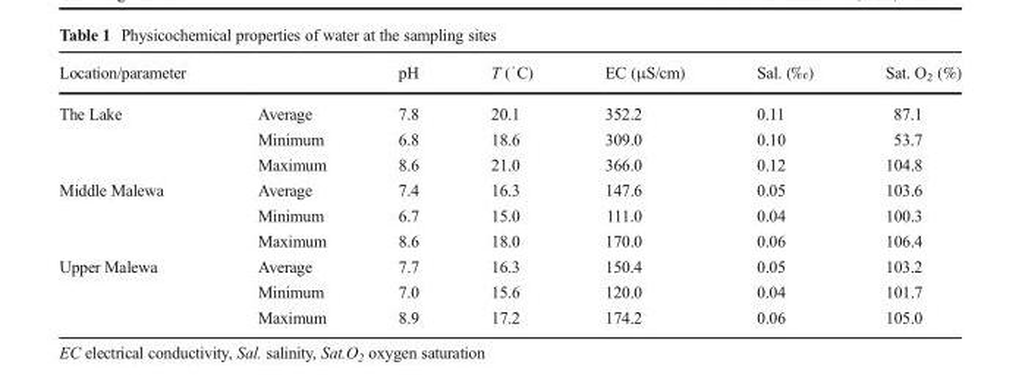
<table><thead><tr><td>Location/parameter</td><td></td><td>pH</td><td>T (<sup>∘</sup>C)</td><td>EC (μS/cm)</td><td>Sal. (‰)</td><td>Sat. O<sub>2</sub> (%)</td></tr></thead><tbody><tr><td rowspan="3">The Lake</td><td>Average</td><td>7.8</td><td>20.1</td><td>352.2</td><td>0.11</td><td>87.1</td></tr><tr><td>Minimum</td><td>6.8</td><td>18.6</td><td>309.0</td><td>0.10</td><td>53.7</td></tr><tr><td>Maximum</td><td>8.6</td><td>21.0</td><td>366.0</td><td>0.12</td><td>104.8</td></tr><tr><td rowspan="3">Middle Malewa</td><td>Average</td><td>7.4</td><td>16.3</td><td>147.6</td><td>0.05</td><td>103.6</td></tr><tr><td>Minimum</td><td>6.7</td><td>15.0</td><td>111.0</td><td>0.04</td><td>100.3</td></tr><tr><td>Maximum</td><td>8.6</td><td>18.0</td><td>170.0</td><td>0.06</td><td>106.4</td></tr><tr><td rowspan="3">Upper Malewa</td><td>Average</td><td>7.7</td><td>16.3</td><td>150.4</td><td>0.05</td><td>103.2</td></tr><tr><td>Minimum</td><td>7.0</td><td>15.6</td><td>120.0</td><td>0.04</td><td>101.7</td></tr><tr><td>Maximum</td><td>8.9</td><td>17.2</td><td>174.2</td><td>0.06</td><td>105.0</td></tr></tbody></table>